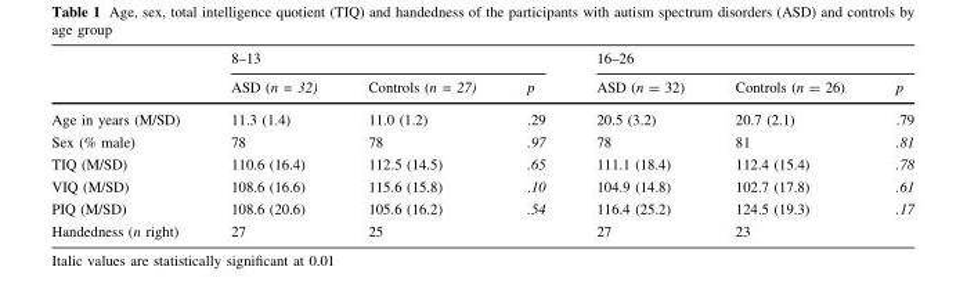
<table><thead><tr><td rowspan="2"></td><td colspan="3">8–13</td><td colspan="3">16–26</td></tr><tr><td>ASD (n = 32)</td><td>Controls (n = 27)</td><td>p</td><td>ASD (n = 32)</td><td>Controls (n = 26)</td><td>p</td></tr></thead><tbody><tr><td>Age in years (M/SD)</td><td>11.3 (1.4)</td><td>11.0 (1.2)</td><td>.29</td><td>20.5 (3.2)</td><td>20.7 (2.1)</td><td>.79</td></tr><tr><td>Sex (% male)</td><td>78</td><td>78</td><td>.97</td><td>78</td><td>81</td><td>.81</td></tr><tr><td>TIQ (M/SD)</td><td>110.6 (16.4)</td><td>112.5 (14.5)</td><td>.65</td><td>111.1 (18.4)</td><td>112.4 (15.4)</td><td>.78</td></tr><tr><td>VIQ (M/SD)</td><td>108.6 (16.6)</td><td>115.6 (15.8)</td><td>.10</td><td>104.9 (14.8)</td><td>102.7 (17.8)</td><td>.61</td></tr><tr><td>PIQ (M/SD)</td><td>108.6 (20.6)</td><td>105.6 (16.2)</td><td>.54</td><td>116.4 (25.2)</td><td>124.5 (19.3)</td><td>.17</td></tr><tr><td>Handedness (n right)</td><td>27</td><td>25</td><td></td><td>27</td><td>23</td><td></td></tr></tbody></table>